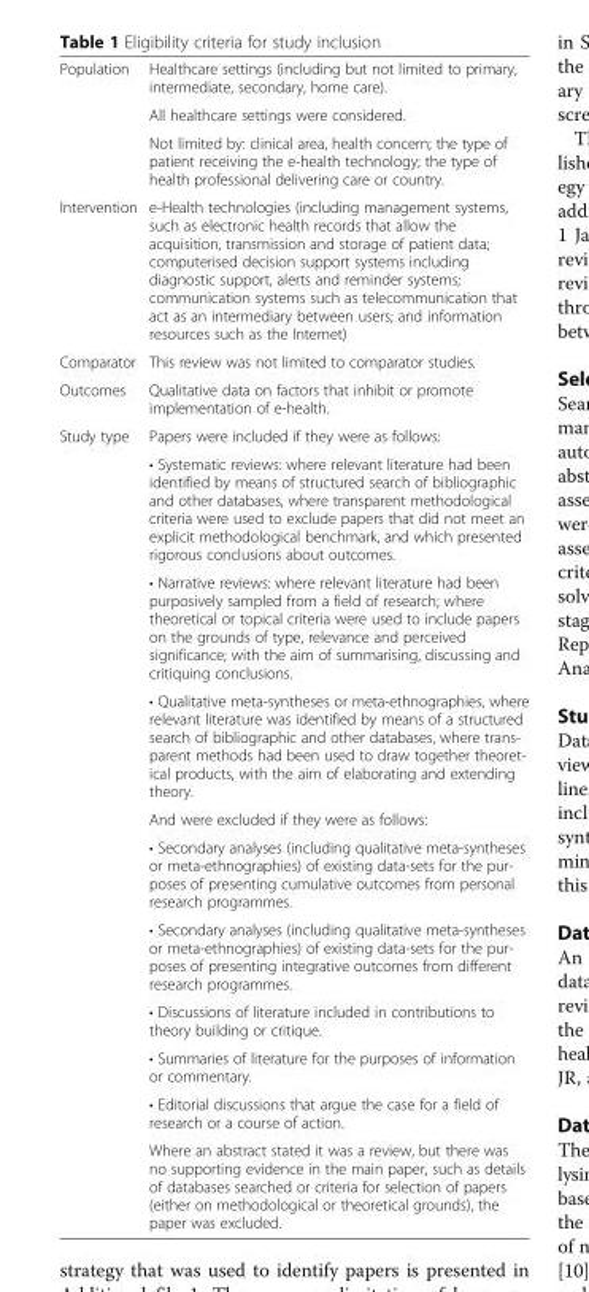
<table><tbody><tr><td rowspan="3">Population</td><td>Healthcare settings (including but not limited to primary, intermediate, secondary, home care).</td></tr><tr><td>All healthcare settings were considered.</td></tr><tr><td>Not limited by: clinical area, health concern; the type of patient receiving the e-health technology; the type of health professional delivering care or country.</td></tr><tr><td>Intervention</td><td>e-Health technologies (including management systems, such as electronic health records that allow the acquisition, transmission and storage of patient data; computerised decision support systems including diagnostic support, alerts and reminder systems; communication systems such as telecommunication that act as an intermediary between users; and information resources such as the Internet)</td></tr><tr><td>Comparator</td><td>This review was not limited to comparator studies.</td></tr><tr><td>Outcomes</td><td>Qualitative data on factors that inhibit or promote implementation of e-health.</td></tr><tr><td rowspan="11">Study type</td><td>Papers were included if they were as follows:</td></tr><tr><td>• Systematic reviews: where relevant literature had been identified by means of structured search of bibliographic and other databases, where transparent methodological criteria were used to exclude papers that did not meet an explicit methodological benchmark, and which presented rigorous conclusions about outcomes.</td></tr><tr><td>• Narrative reviews: where relevant literature had been purposively sampled from a field of research; where theoretical or topical criteria were used to include papers on the grounds of type, relevance and perceived significance; with the aim of summarising, discussing and critiquing conclusions.</td></tr><tr><td>• Qualitative meta-syntheses or meta-ethnographies, where relevant literature was identified by means of a structured search of bibliographic and other databases, where trans- parent methods had been used to draw together theoret- ical products, with the aim of elaborating and extending theory.</td></tr><tr><td>And were excluded if they were as follows:</td></tr><tr><td>• Secondary analyses (including qualitative meta-syntheses or meta-ethnographies) of existing data-sets for the pur- poses of presenting cumulative outcomes from personal research programmes.</td></tr><tr><td>• Secondary analyses (including qualitative meta-syntheses or meta-ethnographies) of existing data-sets for the pur- poses of presenting integrative outcomes from different research programmes.</td></tr><tr><td>• Discussions of literature included in contributions to theory building or critique.</td></tr><tr><td>• Summaries of literature for the purposes of information or commentary.</td></tr><tr><td>• Editorial discussions that argue the case for a field of research or a course of action.</td></tr><tr><td>Where an abstract stated it was a review, but there was no supporting evidence in the main paper, such as details of databases searched or criteria for selection of papers (either on methodological or theoretical grounds), the paper was excluded.</td></tr></tbody></table>